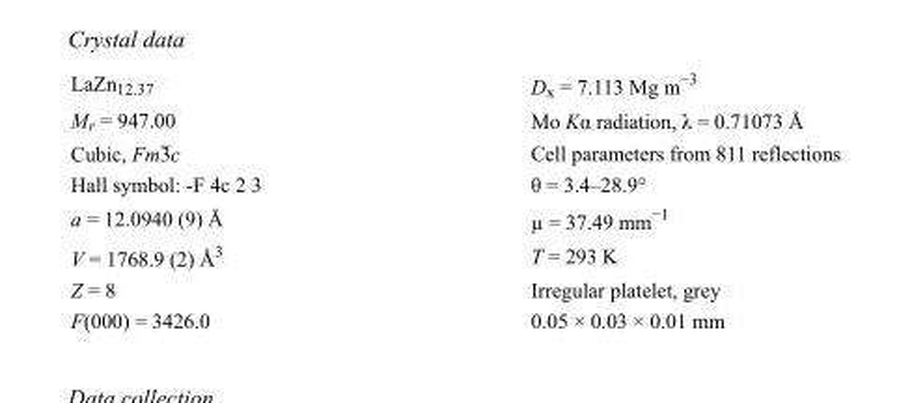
<table><tbody><tr><td>LaZn<sub>12.37</sub></td><td>D<sub>x</sub> = 7.113 Mg m<sup>−3</sup></td></tr><tr><td>M<sub>r</sub> = 947.00</td><td>Mo Kα radiation, λ = 0.71073 Å</td></tr><tr><td>Cubic, Fm3c</td><td>Cell parameters from 811 reflections</td></tr><tr><td>Hall symbol: -F 4c 2 3</td><td>θ = 3.4–28.9°</td></tr><tr><td>a = 12.0940 (9) Å</td><td>µ = 37.49 mm<sup>−1</sup></td></tr><tr><td>V = 1768.9 (2) Å<sup>3</sup></td><td>T = 293 K</td></tr><tr><td>Z = 8</td><td>Irregular platelet, grey</td></tr><tr><td>F(000) = 3426.0</td><td>0.05 × 0.03 × 0.01 mm</td></tr></tbody></table>